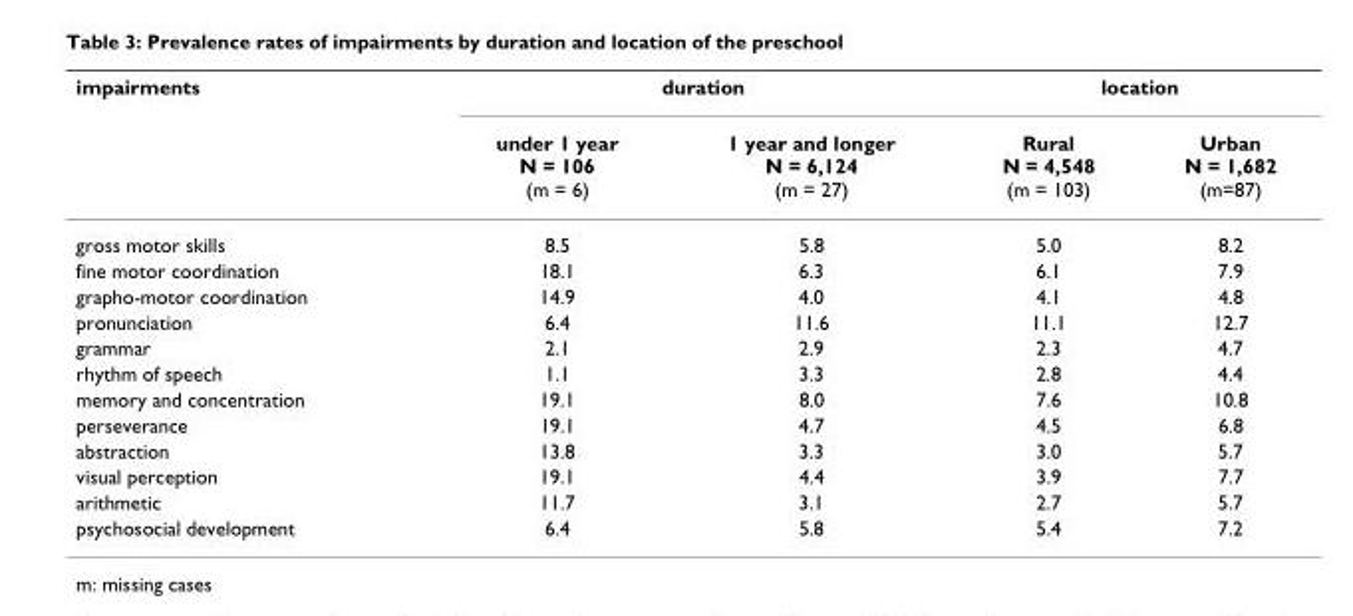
<table><thead><tr><td rowspan="2">impairments</td><td colspan="2">duration</td><td colspan="2">location</td></tr><tr><td>under 1 year N = 106 (m = 6)</td><td>1 year and longer N = 6,124 (m = 27)</td><td>Rural N = 4,548 (m = 103)</td><td>Urban N = 1,682 (m=87)</td></tr></thead><tbody><tr><td>gross motor skills</td><td>8.5</td><td>5.8</td><td>5.0</td><td>8.2</td></tr><tr><td>fine motor coordination</td><td>18.1</td><td>6.3</td><td>6.1</td><td>7.9</td></tr><tr><td>grapho-motor coordination</td><td>14.9</td><td>4.0</td><td>4.1</td><td>4.8</td></tr><tr><td>pronunciation</td><td>6.4</td><td>11.6</td><td>11.1</td><td>12.7</td></tr><tr><td>grammar</td><td>2.1</td><td>2.9</td><td>2.3</td><td>4.7</td></tr><tr><td>rhythm of speech</td><td>1.1</td><td>3.3</td><td>2.8</td><td>4.4</td></tr><tr><td>memory and concentration</td><td>19.1</td><td>8.0</td><td>7.6</td><td>10.8</td></tr><tr><td>perseverance</td><td>19.1</td><td>4.7</td><td>4.5</td><td>6.8</td></tr><tr><td>abstraction</td><td>13.8</td><td>3.3</td><td>3.0</td><td>5.7</td></tr><tr><td>visual perception</td><td>19.1</td><td>4.4</td><td>3.9</td><td>7.7</td></tr><tr><td>arithmetic</td><td>11.7</td><td>3.1</td><td>2.7</td><td>5.7</td></tr><tr><td>psychosocial development</td><td>6.4</td><td>5.8</td><td>5.4</td><td>7.2</td></tr></tbody></table>